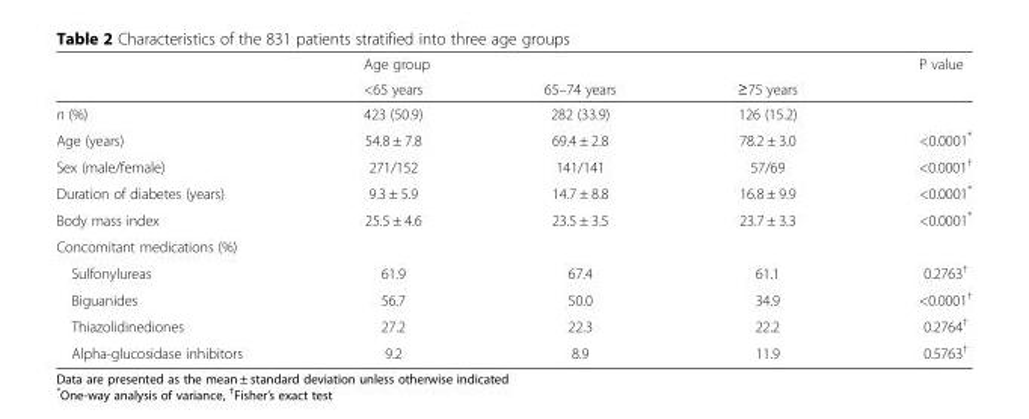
<table><thead><tr><td rowspan="2"></td><td colspan="3">Age group</td><td rowspan="2">P value</td></tr><tr><td>&lt;65 years</td><td>65–74 years</td><td>≥75 years</td></tr></thead><tbody><tr><td>n (%)</td><td>423 (50.9)</td><td>282 (33.9)</td><td>126 (15.2)</td><td></td></tr><tr><td>Age (years)</td><td>54.8 ± 7.8</td><td>69.4 ± 2.8</td><td>78.2 ± 3.0</td><td>&lt;0.0001*</td></tr><tr><td>Sex (male/female)</td><td>271/152</td><td>141/141</td><td>57/69</td><td>&lt;0.0001<sup>†</sup></td></tr><tr><td>Duration of diabetes (years)</td><td>9.3 ± 5.9</td><td>14.7 ± 8.8</td><td>16.8 ± 9.9</td><td>&lt;0.0001*</td></tr><tr><td>Body mass index</td><td>25.5 ± 4.6</td><td>23.5 ± 3.5</td><td>23.7 ± 3.3</td><td>&lt;0.0001*</td></tr><tr><td colspan="5">Concomitant medications (%)</td></tr><tr><td>Sulfonylureas</td><td>61.9</td><td>67.4</td><td>61.1</td><td>0.2763<sup>†</sup></td></tr><tr><td>Biguanides</td><td>56.7</td><td>50.0</td><td>34.9</td><td>&lt;0.0001<sup>†</sup></td></tr><tr><td>Thiazolidinediones</td><td>27.2</td><td>22.3</td><td>22.2</td><td>0.2764<sup>†</sup></td></tr><tr><td>Alpha-glucosidase inhibitors</td><td>9.2</td><td>8.9</td><td>11.9</td><td>0.5763<sup>†</sup></td></tr></tbody></table>